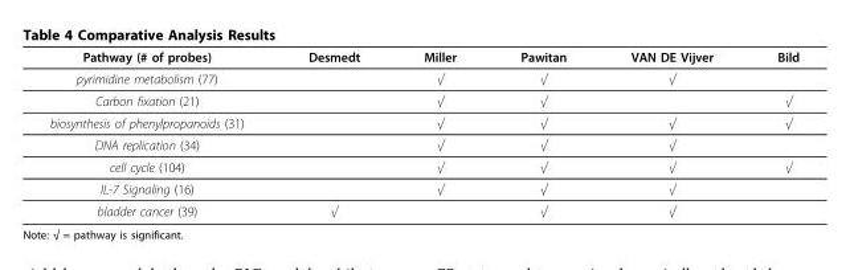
<table><thead><tr><td>Pathway (# of probes)</td><td>Desmedt</td><td>Miller</td><td>Pawitan</td><td>VAN DE Vijver</td><td>Bild</td></tr></thead><tbody><tr><td>pyrimidine metabolism (77)</td><td></td><td>√</td><td>√</td><td>√</td><td></td></tr><tr><td>Carbon fixation (21)</td><td></td><td>√</td><td>√</td><td></td><td>√</td></tr><tr><td>biosynthesis of phenylpropanoids (31)</td><td></td><td>√</td><td>√</td><td>√</td><td>√</td></tr><tr><td>DNA replication (34)</td><td></td><td>√</td><td>√</td><td>√</td><td></td></tr><tr><td>cell cycle (104)</td><td></td><td>√</td><td>√</td><td>√</td><td>√</td></tr><tr><td>IL-7 Signaling (16)</td><td></td><td>√</td><td>√</td><td>√</td><td></td></tr><tr><td>bladder cancer (39)</td><td>√</td><td></td><td>√</td><td>√</td><td></td></tr></tbody></table>